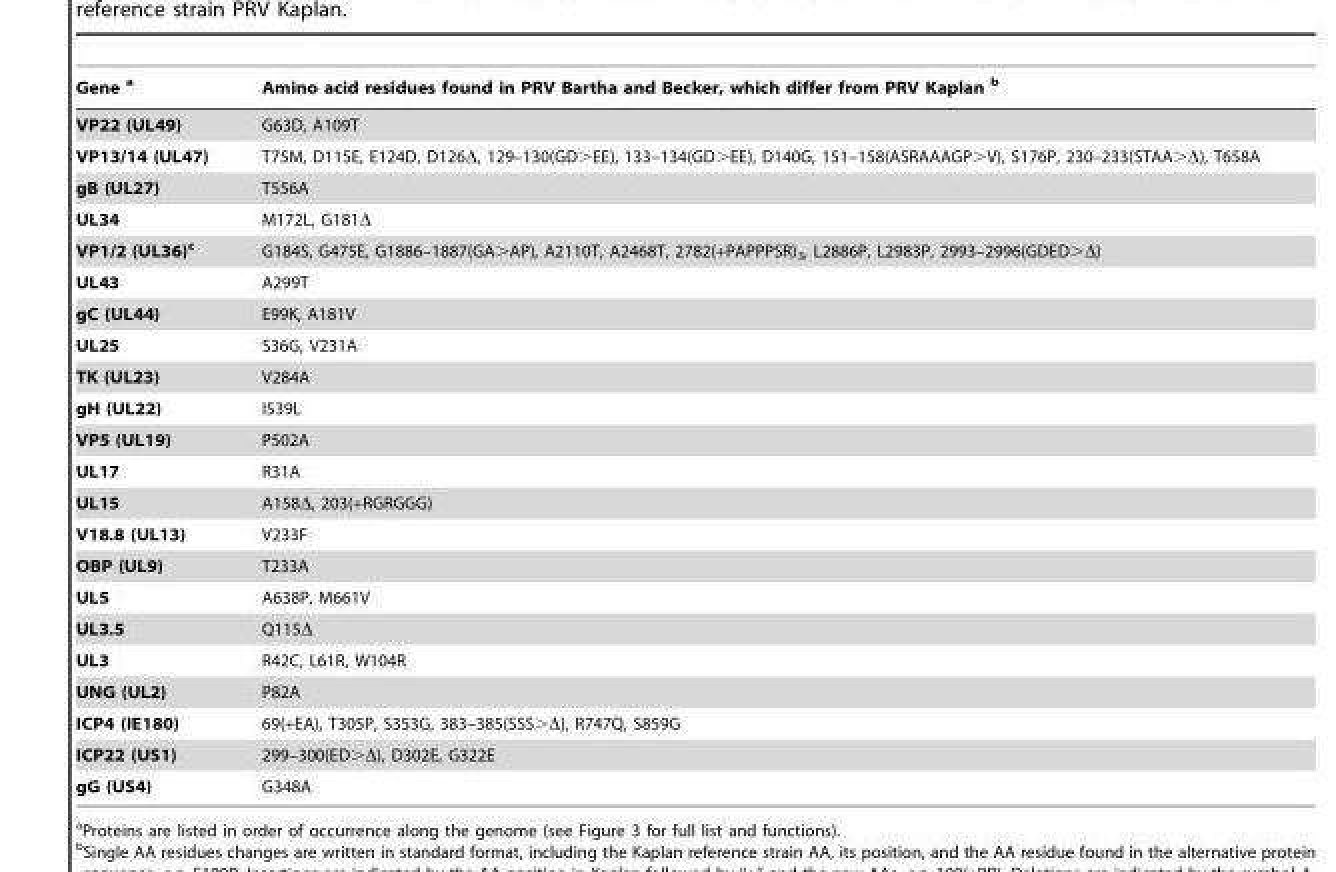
<table><thead><tr><td>Gene a</td><td>Amino acid residues found in PRV Bartha and Becker, which differ from PRV Kaplan b</td></tr></thead><tbody><tr><td>VP22 (UL49)</td><td>G63D, A109T</td></tr><tr><td>VP13/14 (UL47)</td><td>T75M, D115E, E124D, D126Δ, 129–130(GD&gt;EE), 133–134(GD&gt;EE), D140G, 151–158(ASRAAAGP&gt;V), S176P, 230–233(STAA&gt;Δ), T658A</td></tr><tr><td>gB (UL27)</td><td>T556A</td></tr><tr><td>UL34</td><td>M172L, G181Δ</td></tr><tr><td>VP1/2 (UL36)c</td><td>G184S, G475E, G1886–1887(GA&gt;AP), A2110T, A2468T, 2782(+PAPPPSR)<sub>3</sub>, L2886P, L2983P, 2993–2996(GDED&gt;Δ)</td></tr><tr><td>UL43</td><td>A299T</td></tr><tr><td>gC (UL44)</td><td>E99K, A181V</td></tr><tr><td>UL25</td><td>S36G, V231A</td></tr><tr><td>TK (UL23)</td><td>V284A</td></tr><tr><td>gH (UL22)</td><td>I539L</td></tr><tr><td>VP5 (UL19)</td><td>P502A</td></tr><tr><td>UL17</td><td>R31A</td></tr><tr><td>UL15</td><td>A158Δ, 203(+RGRGGG)</td></tr><tr><td>V18.8 (UL13)</td><td>V233F</td></tr><tr><td>OBP (UL9)</td><td>T233A</td></tr><tr><td>UL5</td><td>A638P, M661V</td></tr><tr><td>UL3.5</td><td>Q115Δ</td></tr><tr><td>UL3</td><td>R42C, L61R, W104R</td></tr><tr><td>UNG (UL2)</td><td>P82A</td></tr><tr><td>ICP4 (IE180)</td><td>69(+EA), T305P, S353G, 383–385(SSS&gt;Δ), R747Q, S859G</td></tr><tr><td>ICP22 (US1)</td><td>299–300(ED&gt;Δ), D302E, G322E</td></tr><tr><td>gG (US4)</td><td>G348A</td></tr></tbody></table>